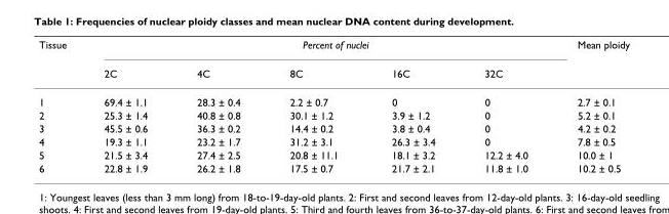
<table><thead><tr><td rowspan="2">Tissue</td><td colspan="5">Percent of nuclei</td><td rowspan="2">Mean ploidy</td></tr><tr><td>2C</td><td>4C</td><td>8C</td><td>16C</td><td>32C</td></tr></thead><tbody><tr><td>1</td><td>69.4 ± 1.1</td><td>28.3 ± 0.4</td><td>2.2 ± 0.7</td><td>0</td><td>0</td><td>2.7 ± 0.1</td></tr><tr><td>2</td><td>25.3 ± 1.4</td><td>40.8 ± 0.8</td><td>30.1 ± 1.2</td><td>3.9 ± 1.2</td><td>0</td><td>5.2 ± 0.1</td></tr><tr><td>3</td><td>45.5 ± 0.6</td><td>36.3 ± 0.2</td><td>14.4 ± 0.2</td><td>3.8 ± 0.4</td><td>0</td><td>4.2 ± 0.2</td></tr><tr><td>4</td><td>19.3 ± 1.1</td><td>23.2 ± 1.7</td><td>31.2 ± 3.1</td><td>26.3 ± 3.4</td><td>0</td><td>7.8 ± 0.5</td></tr><tr><td>5</td><td>21.5 ± 3.4</td><td>27.4 ± 2.5</td><td>20.8 ± 11.1</td><td>18.1 ± 3.2</td><td>12.2 ± 4.0</td><td>10.0 ± 1</td></tr><tr><td>6</td><td>22.8 ± 1.9</td><td>26.2 ± 1.8</td><td>17.5 ± 0.7</td><td>21.7 ± 2.1</td><td>11.8 ± 1.0</td><td>10.2 ± 0.5</td></tr></tbody></table>